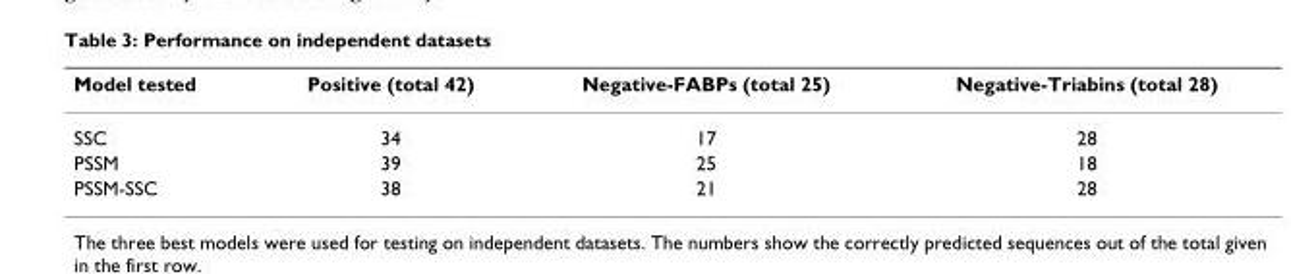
<table><thead><tr><td>Model tested</td><td>Positive (total 42)</td><td>Negative-FABPs (total 25)</td><td>Negative-Triabins (total 28)</td></tr></thead><tbody><tr><td>SSC</td><td>34</td><td>17</td><td>28</td></tr><tr><td>PSSM</td><td>39</td><td>25</td><td>18</td></tr><tr><td>PSSM-SSC</td><td>38</td><td>21</td><td>28</td></tr></tbody></table>